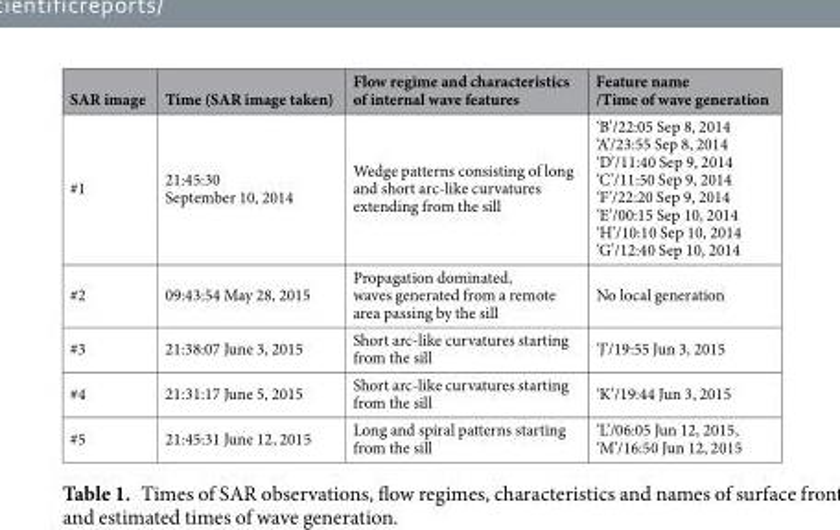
<table><thead><tr><td>SAR image</td><td>Time (SAR image taken)</td><td>Flow regime and characteristics of internal wave features</td><td>Feature name /Time of wave generation</td></tr></thead><tbody><tr><td>#1</td><td>21:45:30 September 10, 2014</td><td>Wedge patterns consisting of long and short arc-like curvatures extending from the sill</td><td>‘B’/22:05 Sep 8, 2014 ‘A’/23:55 Sep 8, 2014 ‘D’/11:40 Sep 9, 2014 ‘C’/11:50 Sep 9, 2014 ‘F’/22:20 Sep 9, 2014 ‘E’/00:15 Sep 10, 2014 ‘H’/10:10 Sep 10, 2014 ‘G’/12:40 Sep 10, 2014</td></tr><tr><td>#2</td><td>09:43:54 May 28, 2015</td><td>Propagation dominated, waves generated from a remote area passing by the sill</td><td>No local generation</td></tr><tr><td>#3</td><td>21:38:07 June 3, 2015</td><td>Short arc-like curvatures starting from the sill</td><td>‘J’/19:55 Jun 3, 2015</td></tr><tr><td>#4</td><td>21:31:17 June 5, 2015</td><td>Short arc-like curvatures starting from the sill</td><td>‘K’/19:44 Jun 3, 2015</td></tr><tr><td>#5</td><td>21:45:31 June 12, 2015</td><td>Long and spiral patterns starting from the sill</td><td>‘L’/06:05 Jun 12, 2015, ‘M’/16:50 Jun 12, 2015</td></tr></tbody></table>